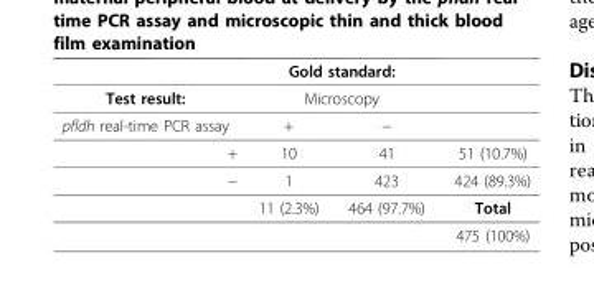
<table><thead><tr><td rowspan="3">Test result: pfldh real-time PCR assay</td><td rowspan="2" colspan="2">Gold standard: Microscopy</td><td rowspan="3"></td></tr><tr></tr><tr><td>+</td><td>−</td></tr></thead><tbody><tr><td>+</td><td>10</td><td>41</td><td>51 (10.7%)</td></tr><tr><td rowspan="3">−</td><td>1</td><td>423</td><td>424 (89.3%)</td></tr><tr><td>11 (2.3%)</td><td>464 (97.7%)</td><td>Total</td></tr><tr><td></td><td></td><td>475 (100%)</td></tr></tbody></table>